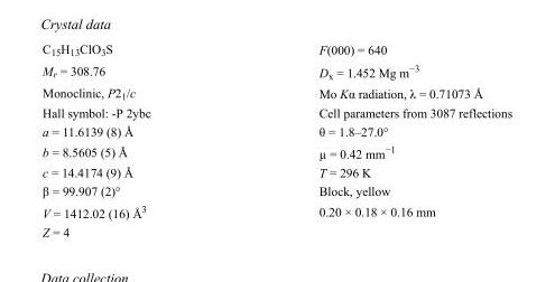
<table><tbody><tr><td>C<sub>15</sub>H<sub>13</sub>ClO<sub>3</sub>S</td><td>F(000) = 640</td></tr><tr><td>M<sub>r</sub> = 308.76</td><td>D<sub>x</sub> = 1.452 Mg m<sup>−3</sup></td></tr><tr><td>Monoclinic, P2<sub>1</sub>/c</td><td>Mo Kα radiation, λ = 0.71073 Å</td></tr><tr><td>Hall symbol: -P 2ybc</td><td>Cell parameters from 3087 reflections</td></tr><tr><td>a = 11.6139 (8) Å</td><td>θ = 1.8–27.0°</td></tr><tr><td>b = 8.5605 (5) Å</td><td>µ = 0.42 mm<sup>−1</sup></td></tr><tr><td>c = 14.4174 (9) Å</td><td>T = 296 K</td></tr><tr><td>β = 99.907 (2)°</td><td>Block, yellow</td></tr><tr><td>V = 1412.02 (16) Å<sup>3</sup></td><td>0.20 × 0.18 × 0.16 mm</td></tr><tr><td>Z = 4</td><td></td></tr></tbody></table>